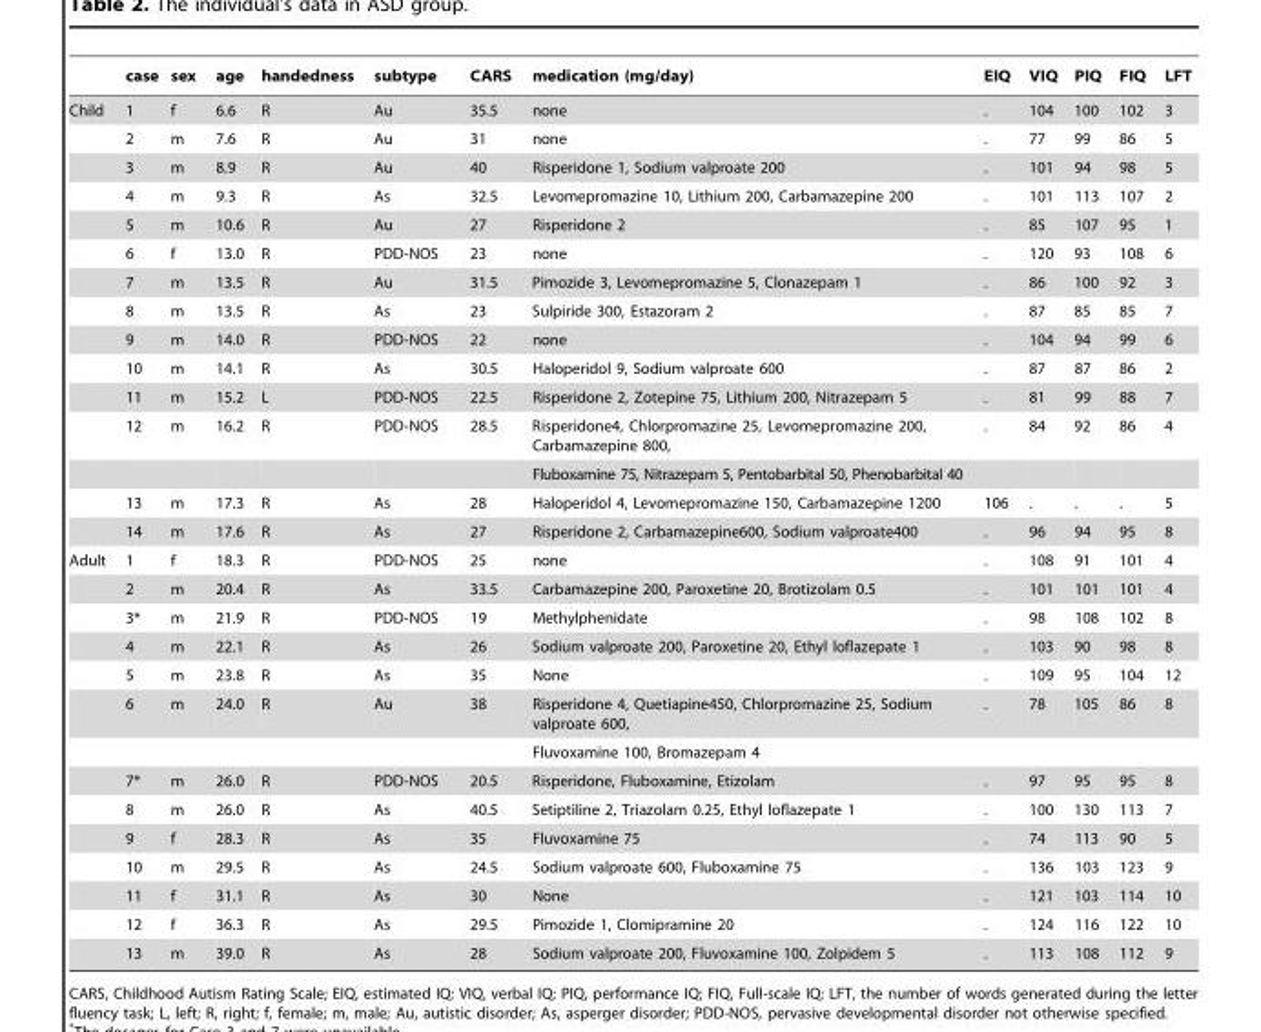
<table><thead><tr><td></td><td>case</td><td>sex</td><td>age</td><td>handedness</td><td>subtype</td><td>CARS</td><td>medication (mg/day)</td><td>EIQ</td><td>VIQ</td><td>PIQ</td><td>FIQ</td><td>LFT</td></tr></thead><tbody><tr><td rowspan="15">Child</td><td>1</td><td>f</td><td>6.6</td><td>R</td><td>Au</td><td>35.5</td><td>none</td><td>.</td><td>104</td><td>100</td><td>102</td><td>3</td></tr><tr><td>2</td><td>m</td><td>7.6</td><td>R</td><td>Au</td><td>31</td><td>none</td><td>.</td><td>77</td><td>99</td><td>86</td><td>5</td></tr><tr><td>3</td><td>m</td><td>8.9</td><td>R</td><td>Au</td><td>40</td><td>Risperidone 1, Sodium valproate 200</td><td>.</td><td>101</td><td>94</td><td>98</td><td>5</td></tr><tr><td>4</td><td>m</td><td>9.3</td><td>R</td><td>As</td><td>32.5</td><td>Levomepromazine 10, Lithium 200, Carbamazepine 200</td><td>.</td><td>101</td><td>113</td><td>107</td><td>2</td></tr><tr><td>5</td><td>m</td><td>10.6</td><td>R</td><td>Au</td><td>27</td><td>Risperidone 2</td><td>.</td><td>85</td><td>107</td><td>95</td><td>1</td></tr><tr><td>6</td><td>f</td><td>13.0</td><td>R</td><td>PDD-NOS</td><td>23</td><td>none</td><td>.</td><td>120</td><td>93</td><td>108</td><td>6</td></tr><tr><td>7</td><td>m</td><td>13.5</td><td>R</td><td>Au</td><td>31.5</td><td>Pimozide 3, Levomepromazine 5, Clonazepam 1</td><td>.</td><td>86</td><td>100</td><td>92</td><td>3</td></tr><tr><td>8</td><td>m</td><td>13.5</td><td>R</td><td>As</td><td>23</td><td>Sulpiride 300, Estazoram 2</td><td>.</td><td>87</td><td>85</td><td>85</td><td>7</td></tr><tr><td>9</td><td>m</td><td>14.0</td><td>R</td><td>PDD-NOS</td><td>22</td><td>none</td><td>.</td><td>104</td><td>94</td><td>99</td><td>6</td></tr><tr><td>10</td><td>m</td><td>14.1</td><td>R</td><td>As</td><td>30.5</td><td>Haloperidol 9, Sodium valproate 600</td><td>.</td><td>87</td><td>87</td><td>86</td><td>2</td></tr><tr><td>11</td><td>m</td><td>15.2</td><td>L</td><td>PDD-NOS</td><td>22.5</td><td>Risperidone 2, Zotepine 75, Lithium 200, Nitrazepam 5</td><td>.</td><td>81</td><td>99</td><td>88</td><td>7</td></tr><tr><td>12</td><td>m</td><td>16.2</td><td>R</td><td>PDD-NOS</td><td>28.5</td><td>Risperidone4, Chlorpromazine 25, Levomepromazine 200, Carbamazepine 800,</td><td>.</td><td>84</td><td>92</td><td>86</td><td>4</td></tr><tr><td></td><td></td><td></td><td></td><td></td><td></td><td>Fluboxamine 75, Nitrazepam 5, Pentobarbital 50, Phenobarbital 40</td><td></td><td></td><td></td><td></td><td></td></tr><tr><td>13</td><td>m</td><td>17.3</td><td>R</td><td>As</td><td>28</td><td>Haloperidol 4, Levomepromazine 150, Carbamazepine 1200</td><td>106</td><td>.</td><td>.</td><td>.</td><td>5</td></tr><tr><td>14</td><td>m</td><td>17.6</td><td>R</td><td>As</td><td>27</td><td>Risperidone 2, Carbamazepine600, Sodium valproate400</td><td>.</td><td>96</td><td>94</td><td>95</td><td>8</td></tr><tr><td rowspan="14">Adult</td><td>1</td><td>f</td><td>18.3</td><td>R</td><td>PDD-NOS</td><td>25</td><td>none</td><td>.</td><td>108</td><td>91</td><td>101</td><td>4</td></tr><tr><td>2</td><td>m</td><td>20.4</td><td>R</td><td>As</td><td>33.5</td><td>Carbamazepine 200, Paroxetine 20, Brotizolam 0.5</td><td>.</td><td>101</td><td>101</td><td>101</td><td>4</td></tr><tr><td>3*</td><td>m</td><td>21.9</td><td>R</td><td>PDD-NOS</td><td>19</td><td>Methylphenidate</td><td>.</td><td>98</td><td>108</td><td>102</td><td>8</td></tr><tr><td>4</td><td>m</td><td>22.1</td><td>R</td><td>As</td><td>26</td><td>Sodium valproate 200, Paroxetine 20, Ethyl loflazepate 1</td><td>.</td><td>103</td><td>90</td><td>98</td><td>8</td></tr><tr><td>5</td><td>m</td><td>23.8</td><td>R</td><td>As</td><td>35</td><td>None</td><td>.</td><td>109</td><td>95</td><td>104</td><td>12</td></tr><tr><td>6</td><td>m</td><td>24.0</td><td>R</td><td>Au</td><td>38</td><td>Risperidone 4, Quetiapine450, Chlorpromazine 25, Sodium valproate 600,</td><td>.</td><td>78</td><td>105</td><td>86</td><td>8</td></tr><tr><td></td><td></td><td></td><td></td><td></td><td></td><td>Fluvoxamine 100, Bromazepam 4</td><td></td><td></td><td></td><td></td><td></td></tr><tr><td>7*</td><td>m</td><td>26.0</td><td>R</td><td>PDD-NOS</td><td>20.5</td><td>Risperidone, Fluboxamine, Etizolam</td><td>.</td><td>97</td><td>95</td><td>95</td><td>8</td></tr><tr><td>8</td><td>m</td><td>26.0</td><td>R</td><td>As</td><td>40.5</td><td>Setiptiline 2, Triazolam 0.25, Ethyl loflazepate 1</td><td>.</td><td>100</td><td>130</td><td>113</td><td>7</td></tr><tr><td>9</td><td>f</td><td>28.3</td><td>R</td><td>As</td><td>35</td><td>Fluvoxamine 75</td><td>.</td><td>74</td><td>113</td><td>90</td><td>5</td></tr><tr><td>10</td><td>m</td><td>29.5</td><td>R</td><td>As</td><td>24.5</td><td>Sodium valproate 600, Fluboxamine 75</td><td>.</td><td>136</td><td>103</td><td>123</td><td>9</td></tr><tr><td>11</td><td>f</td><td>31.1</td><td>R</td><td>As</td><td>30</td><td>None</td><td>.</td><td>121</td><td>103</td><td>114</td><td>10</td></tr><tr><td>12</td><td>f</td><td>36.3</td><td>R</td><td>As</td><td>29.5</td><td>Pimozide 1, Clomipramine 20</td><td>.</td><td>124</td><td>116</td><td>122</td><td>10</td></tr><tr><td>13</td><td>m</td><td>39.0</td><td>R</td><td>As</td><td>28</td><td>Sodium valproate 200, Fluvoxamine 100, Zolpidem 5</td><td>.</td><td>113</td><td>108</td><td>112</td><td>9</td></tr></tbody></table>